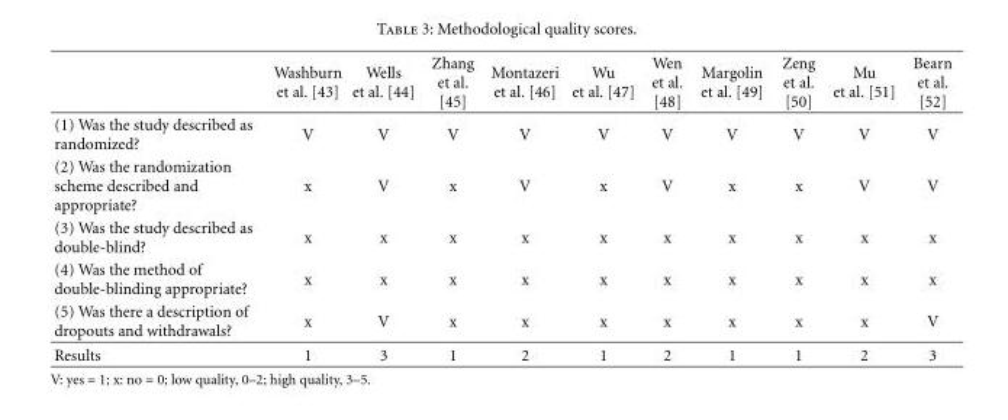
<table><thead><tr><td></td><td>Washburn et al. [43]</td><td>Wells et al. [44]</td><td>Zhang et al. [45]</td><td>Montazeri et al. [46]</td><td>Wu et al. [47]</td><td>Wen et al. [48]</td><td>Margolin et al. [49]</td><td>Zeng et al. [50]</td><td>Mu et al. [51]</td><td>Bearn et al. [52]</td></tr></thead><tbody><tr><td>(1) Was the study described as randomized?</td><td>V</td><td>V</td><td>V</td><td>V</td><td>V</td><td>V</td><td>V</td><td>V</td><td>V</td><td>V</td></tr><tr><td>(2) Was the randomization scheme described and appropriate?</td><td>x</td><td>V</td><td>x</td><td>V</td><td>x</td><td>V</td><td>x</td><td>x</td><td>V</td><td>V</td></tr><tr><td>(3) Was the study described as double-blind?</td><td>x</td><td>x</td><td>x</td><td>x</td><td>x</td><td>x</td><td>x</td><td>x</td><td>x</td><td>x</td></tr><tr><td>(4) Was the method of double-blinding appropriate?</td><td>x</td><td>x</td><td>x</td><td>x</td><td>x</td><td>x</td><td>x</td><td>x</td><td>x</td><td>x</td></tr><tr><td>(5) Was there a description of dropouts and withdrawals?</td><td>x</td><td>V</td><td>x</td><td>x</td><td>x</td><td>x</td><td>x</td><td>x</td><td>x</td><td>V</td></tr><tr><td>Results</td><td>1</td><td>3</td><td>1</td><td>2</td><td>1</td><td>2</td><td>1</td><td>1</td><td>2</td><td>3</td></tr></tbody></table>